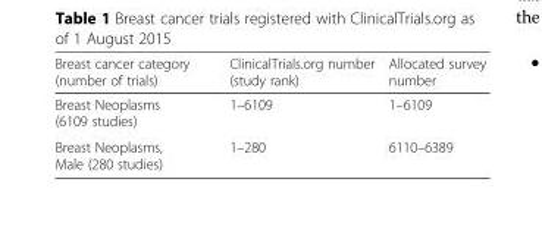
<table><thead><tr><td>Breast cancer category (number of trials)</td><td>ClinicalTrials.org number (study rank)</td><td>Allocated survey number</td></tr></thead><tbody><tr><td>Breast Neoplasms (6109 studies)</td><td>1–6109</td><td>1–6109</td></tr><tr><td>Breast Neoplasms, Male (280 studies)</td><td>1–280</td><td>6110–6389</td></tr></tbody></table>